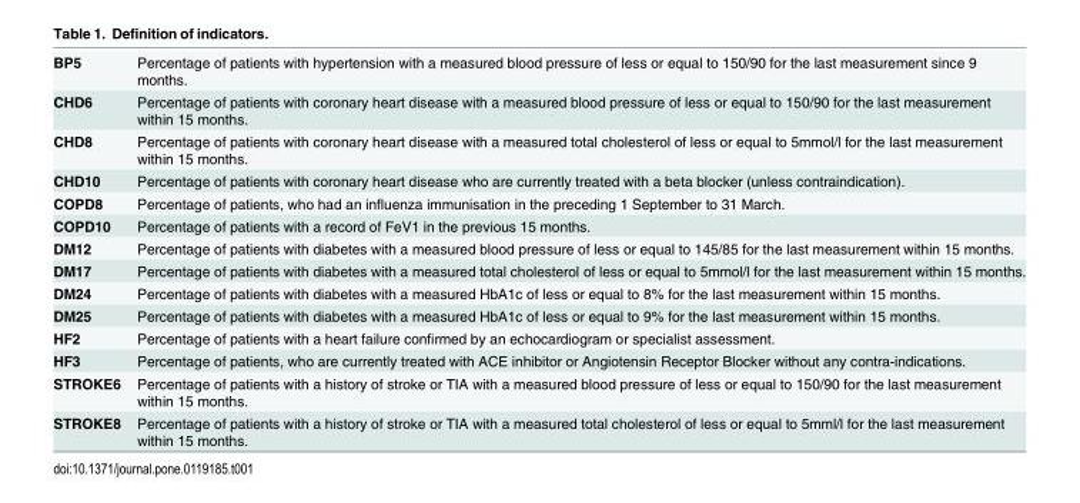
<table><tbody><tr><td>BP5</td><td>Percentage of patients with hypertension with a measured blood pressure of less or equal to 150/90 for the last measurement since 9 months.</td></tr><tr><td>CHD6</td><td>Percentage of patients with coronary heart disease with a measured blood pressure of less or equal to 150/90 for the last measurement within 15 months.</td></tr><tr><td>CHD8</td><td>Percentage of patients with coronary heart disease with a measured total cholesterol of less or equal to 5mmol/l for the last measurement within 15 months.</td></tr><tr><td>CHD10</td><td>Percentage of patients with coronary heart disease who are currently treated with a beta blocker (unless contraindication).</td></tr><tr><td>COPD8</td><td>Percentage of patients, who had an influenza immunisation in the preceding 1 September to 31 March.</td></tr><tr><td>COPD10</td><td>Percentage of patients with a record of FeV1 in the previous 15 months.</td></tr><tr><td>DM12</td><td>Percentage of patients with diabetes with a measured blood pressure of less or equal to 145/85 for the last measurement within 15 months.</td></tr><tr><td>DM17</td><td>Percentage of patients with diabetes with a measured total cholesterol of less or equal to 5mmol/l for the last measurement within 15 months.</td></tr><tr><td>DM24</td><td>Percentage of patients with diabetes with a measured HbA1c of less or equal to 8% for the last measurement within 15 months.</td></tr><tr><td>DM25</td><td>Percentage of patients with diabetes with a measured HbA1c of less or equal to 9% for the last measurement within 15 months.</td></tr><tr><td>HF2</td><td>Percentage of patients with a heart failure confirmed by an echocardiogram or specialist assessment.</td></tr><tr><td>HF3</td><td>Percentage of patients, who are currently treated with ACE inhibitor or Angiotensin Receptor Blocker without any contra-indications.</td></tr><tr><td>STROKE6</td><td>Percentage of patients with a history of stroke or TIA with a measured blood pressure of less or equal to 150/90 for the last measurement within 15 months.</td></tr><tr><td>STROKE8</td><td>Percentage of patients with a history of stroke or TIA with a measured total cholesterol of less or equal to 5mml/l for the last measurement within 15 months.</td></tr></tbody></table>